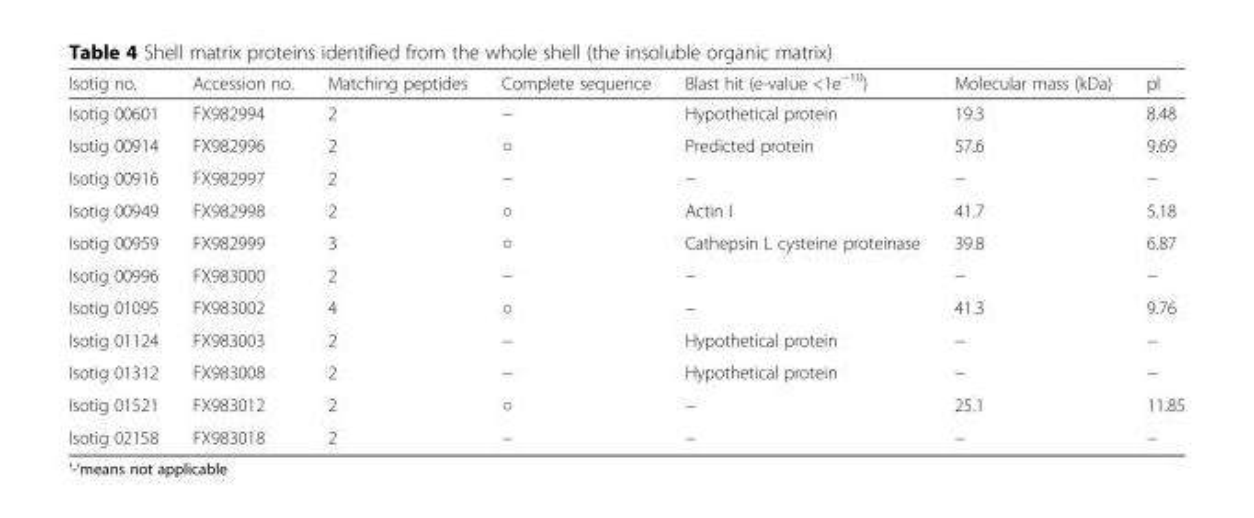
<table><thead><tr><td>Isotig no.</td><td>Accession no.</td><td>Matching peptides</td><td>Complete sequence</td><td>Blast hit (e-value &lt;1e<sup>−10</sup>)</td><td>Molecular mass (kDa)</td><td>pI</td></tr></thead><tbody><tr><td>Isotig 00601</td><td>FX982994</td><td>2</td><td>−</td><td>Hypothetical protein</td><td>19.3</td><td>8.48</td></tr><tr><td>Isotig 00914</td><td>FX982996</td><td>2</td><td>○</td><td>Predicted protein</td><td>57.6</td><td>9.69</td></tr><tr><td>Isotig 00916</td><td>FX982997</td><td>2</td><td>−</td><td>−</td><td>−</td><td>−</td></tr><tr><td>Isotig 00949</td><td>FX982998</td><td>2</td><td>○</td><td>Actin I</td><td>41.7</td><td>5.18</td></tr><tr><td>Isotig 00959</td><td>FX982999</td><td>3</td><td>○</td><td>Cathepsin L cysteine proteinase</td><td>39.8</td><td>6.87</td></tr><tr><td>Isotig 00996</td><td>FX983000</td><td>2</td><td>−</td><td>−</td><td>−</td><td>−</td></tr><tr><td>Isotig 01095</td><td>FX983002</td><td>4</td><td>○</td><td>−</td><td>41.3</td><td>9.76</td></tr><tr><td>Isotig 01124</td><td>FX983003</td><td>2</td><td>−</td><td>Hypothetical protein</td><td>−</td><td>−</td></tr><tr><td>Isotig 01312</td><td>FX983008</td><td>2</td><td>−</td><td>Hypothetical protein</td><td>−</td><td>−</td></tr><tr><td>Isotig 01521</td><td>FX983012</td><td>2</td><td>○</td><td>−</td><td>25.1</td><td>11.85</td></tr><tr><td>Isotig 02158</td><td>FX983018</td><td>2</td><td>−</td><td>−</td><td>−</td><td>−</td></tr></tbody></table>